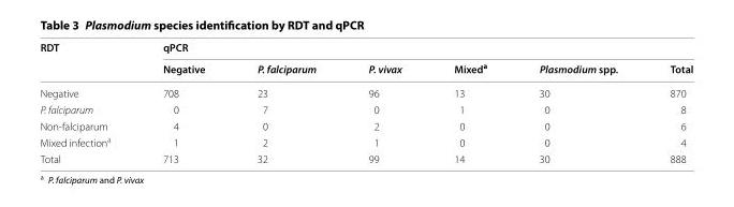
<table><thead><tr><td rowspan="2">RDT</td><td colspan="6">qPCR</td></tr><tr><td>Negative</td><td>P. falciparum</td><td>P. vivax</td><td>Mixed<sup>a</sup></td><td>Plasmodium spp.</td><td>Total</td></tr></thead><tbody><tr><td>Negative</td><td>708</td><td>23</td><td>96</td><td>13</td><td>30</td><td>870</td></tr><tr><td>P. falciparum</td><td>0</td><td>7</td><td>0</td><td>1</td><td>0</td><td>8</td></tr><tr><td>Non-falciparum</td><td>4</td><td>0</td><td>2</td><td>0</td><td>0</td><td>6</td></tr><tr><td>Mixed infection<sup>a</sup></td><td>1</td><td>2</td><td>1</td><td>0</td><td>0</td><td>4</td></tr><tr><td>Total</td><td>713</td><td>32</td><td>99</td><td>14</td><td>30</td><td>888</td></tr></tbody></table>